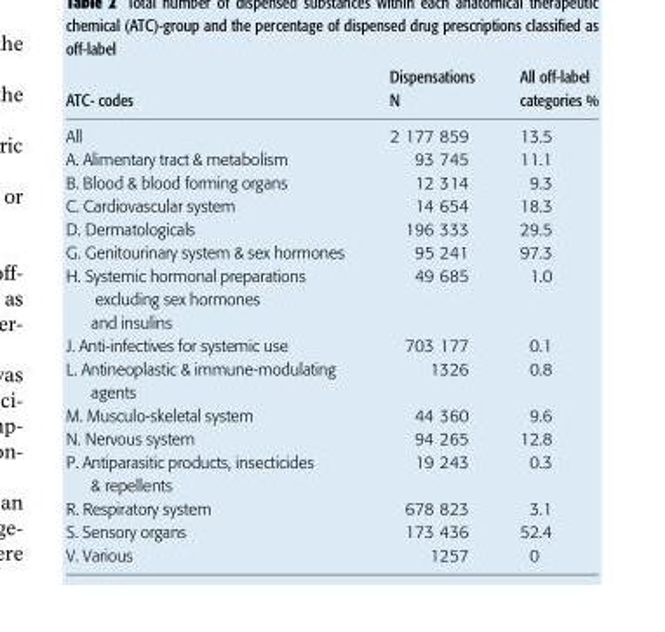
<table><thead><tr><td>ATC- codes</td><td>Dispensations N</td><td>All off-label categories %</td></tr></thead><tbody><tr><td>All</td><td>2 177 859</td><td>13.5</td></tr><tr><td>A. Alimentary tract &amp; metabolism</td><td>93 745</td><td>11.1</td></tr><tr><td>B. Blood &amp; blood forming organs</td><td>12 314</td><td>9.3</td></tr><tr><td>C. Cardiovascular system</td><td>14 654</td><td>18.3</td></tr><tr><td>D. Dermatologicals</td><td>196 333</td><td>29.5</td></tr><tr><td>G. Genitourinary system &amp; sex hormones</td><td>95 241</td><td>97.3</td></tr><tr><td>H. Systemic hormonal preparations excluding sex hormones and insulins</td><td>49 685</td><td>1.0</td></tr><tr><td>J. Anti-infectives for systemic use</td><td>703 177</td><td>0.1</td></tr><tr><td>L. Antineoplastic &amp; immune-modulating agents</td><td>1326</td><td>0.8</td></tr><tr><td>M. Musculo-skeletal system</td><td>44 360</td><td>9.6</td></tr><tr><td>N. Nervous system</td><td>94 265</td><td>12.8</td></tr><tr><td>P. Antiparasitic products, insecticides &amp; repellents</td><td>19 243</td><td>0.3</td></tr><tr><td>R. Respiratory system</td><td>678 823</td><td>3.1</td></tr><tr><td>S. Sensory organs</td><td>173 436</td><td>52.4</td></tr><tr><td>V. Various</td><td>1257</td><td>0</td></tr></tbody></table>